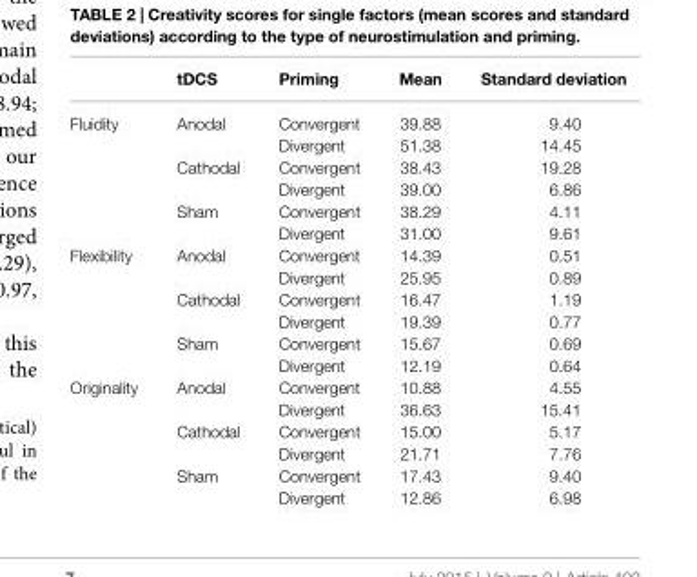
<table><thead><tr><td></td><td>tDCS</td><td>Priming</td><td>Mean</td><td>Standard deviation</td></tr></thead><tbody><tr><td rowspan="6">Fluidity</td><td>Anodal</td><td>Convergent</td><td>39.88</td><td>9.40</td></tr><tr><td></td><td>Divergent</td><td>51.38</td><td>14.45</td></tr><tr><td>Cathodal</td><td>Convergent</td><td>38.43</td><td>19.28</td></tr><tr><td></td><td>Divergent</td><td>39.00</td><td>6.86</td></tr><tr><td>Sham</td><td>Convergent</td><td>38.29</td><td>4.11</td></tr><tr><td></td><td>Divergent</td><td>31.00</td><td>9.61</td></tr><tr><td rowspan="6">Flexibility</td><td>Anodal</td><td>Convergent</td><td>14.39</td><td>0.51</td></tr><tr><td></td><td>Divergent</td><td>25.95</td><td>0.89</td></tr><tr><td>Cathodal</td><td>Convergent</td><td>16.47</td><td>1.19</td></tr><tr><td></td><td>Divergent</td><td>19.39</td><td>0.77</td></tr><tr><td>Sham</td><td>Convergent</td><td>15.67</td><td>0.69</td></tr><tr><td></td><td>Divergent</td><td>12.19</td><td>0.64</td></tr><tr><td rowspan="6">Originality</td><td>Anodal</td><td>Convergent</td><td>10.88</td><td>4.55</td></tr><tr><td></td><td>Divergent</td><td>36.63</td><td>15.41</td></tr><tr><td>Cathodal</td><td>Convergent</td><td>15.00</td><td>5.17</td></tr><tr><td></td><td>Divergent</td><td>21.71</td><td>7.76</td></tr><tr><td>Sham</td><td>Convergent</td><td>17.43</td><td>9.40</td></tr><tr><td></td><td>Divergent</td><td>12.86</td><td>6.98</td></tr></tbody></table>